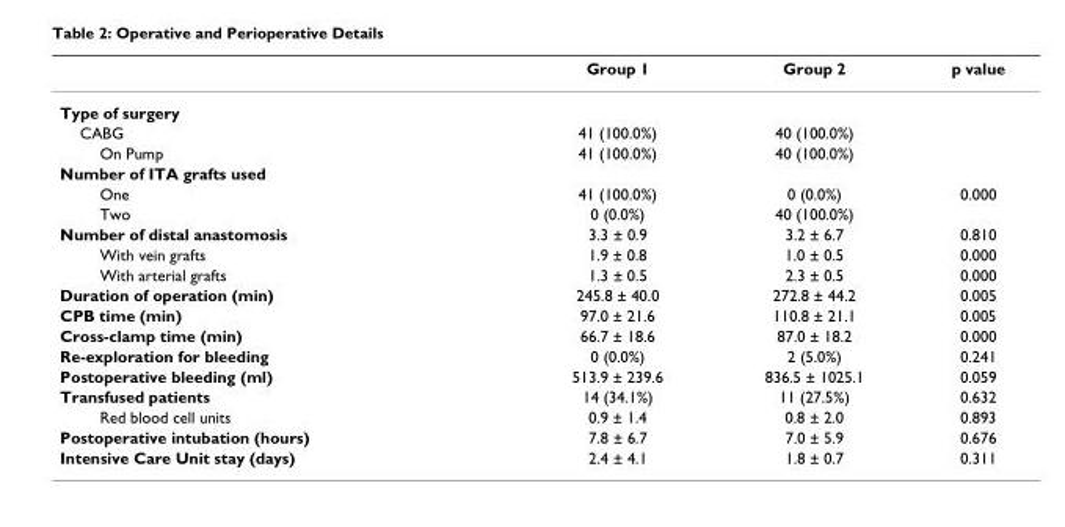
<table><thead><tr><td></td><td>Group 1</td><td>Group 2</td><td>p value</td></tr></thead><tbody><tr><td colspan="4">Type of surgery</td></tr><tr><td>CABG</td><td>41 (100.0%)</td><td>40 (100.0%)</td><td></td></tr><tr><td>On Pump</td><td>41 (100.0%)</td><td>40 (100.0%)</td><td></td></tr><tr><td colspan="4">Number of ITA grafts used</td></tr><tr><td>One</td><td>41 (100.0%)</td><td>0 (0.0%)</td><td>0.000</td></tr><tr><td>Two</td><td>0 (0.0%)</td><td>40 (100.0%)</td><td></td></tr><tr><td>Number of distal anastomosis</td><td>3.3 ± 0.9</td><td>3.2 ± 6.7</td><td>0.810</td></tr><tr><td>With vein grafts</td><td>1.9 ± 0.8</td><td>1.0 ± 0.5</td><td>0.000</td></tr><tr><td>With arterial grafts</td><td>1.3 ± 0.5</td><td>2.3 ± 0.5</td><td>0.000</td></tr><tr><td>Duration of operation (min)</td><td>245.8 ± 40.0</td><td>272.8 ± 44.2</td><td>0.005</td></tr><tr><td>CPB time (min)</td><td>97.0 ± 21.6</td><td>110.8 ± 21.1</td><td>0.005</td></tr><tr><td>Cross-clamp time (min)</td><td>66.7 ± 18.6</td><td>87.0 ± 18.2</td><td>0.000</td></tr><tr><td>Re-exploration for bleeding</td><td>0 (0.0%)</td><td>2 (5.0%)</td><td>0.241</td></tr><tr><td>Postoperative bleeding (ml)</td><td>513.9 ± 239.6</td><td>836.5 ± 1025.1</td><td>0.059</td></tr><tr><td>Transfused patients</td><td>14 (34.1%)</td><td>11 (27.5%)</td><td>0.632</td></tr><tr><td>Red blood cell units</td><td>0.9 ± 1.4</td><td>0.8 ± 2.0</td><td>0.893</td></tr><tr><td>Postoperative intubation (hours)</td><td>7.8 ± 6.7</td><td>7.0 ± 5.9</td><td>0.676</td></tr><tr><td>Intensive Care Unit stay (days)</td><td>2.4 ± 4.1</td><td>1.8 ± 0.7</td><td>0.311</td></tr></tbody></table>